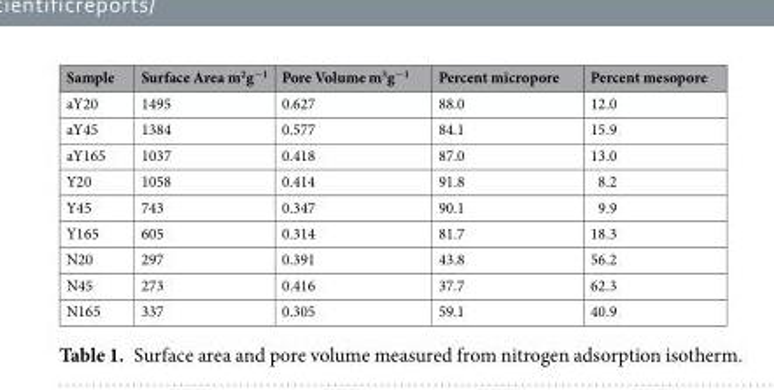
<table><thead><tr><td>Sample</td><td>Surface Area m<sup>2</sup>g<sup>−1</sup></td><td>Pore Volume m<sup>3</sup>g<sup>−1</sup></td><td>Percent micropore</td><td>Percent mesopore</td></tr></thead><tbody><tr><td>aY20</td><td>1495</td><td>0.627</td><td>88.0</td><td>12.0</td></tr><tr><td>aY45</td><td>1384</td><td>0.577</td><td>84.1</td><td>15.9</td></tr><tr><td>aY165</td><td>1037</td><td>0.418</td><td>87.0</td><td>13.0</td></tr><tr><td>Y20</td><td>1058</td><td>0.414</td><td>91.8</td><td>8.2</td></tr><tr><td>Y45</td><td>743</td><td>0.347</td><td>90.1</td><td>9.9</td></tr><tr><td>Y165</td><td>605</td><td>0.314</td><td>81.7</td><td>18.3</td></tr><tr><td>N20</td><td>297</td><td>0.391</td><td>43.8</td><td>56.2</td></tr><tr><td>N45</td><td>273</td><td>0.416</td><td>37.7</td><td>62.3</td></tr><tr><td>N165</td><td>337</td><td>0.305</td><td>59.1</td><td>40.9</td></tr></tbody></table>